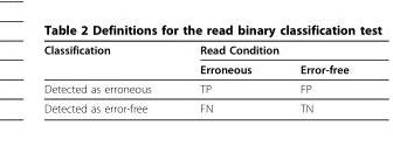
<table><thead><tr><td rowspan="2">Classification</td><td colspan="2">Read Condition</td></tr><tr><td>Erroneous</td><td>Error-free</td></tr></thead><tbody><tr><td>Detected as erroneous</td><td>TP</td><td>FP</td></tr><tr><td>Detected as error-free</td><td>FN</td><td>TN</td></tr></tbody></table>